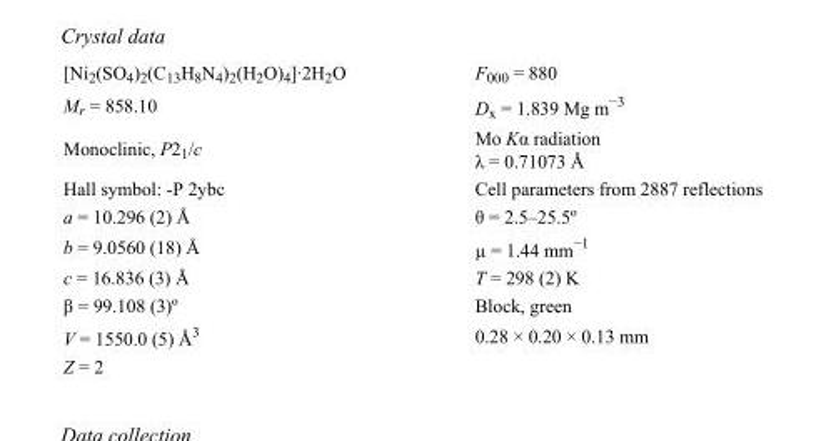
<table><tbody><tr><td>[Ni<sub>2</sub>(SO<sub>4</sub>)<sub>2</sub>(C<sub>13</sub>H<sub>8</sub>N<sub>4</sub>)<sub>2</sub>(H<sub>2</sub>O)<sub>4</sub>]·2H<sub>2</sub>O</td><td>F000 = 880</td></tr><tr><td>M<sub>r</sub> = 858.10</td><td>D<sub>x</sub> = 1.839 Mg m<sup>−3</sup></td></tr><tr><td>Monoclinic, P2<sub>1</sub>/c</td><td>Mo Kα radiation λ = 0.71073 Å</td></tr><tr><td>Hall symbol: -P 2ybc</td><td>Cell parameters from 2887 reflections</td></tr><tr><td>a = 10.296 (2) Å</td><td>θ = 2.5–25.5º</td></tr><tr><td>b = 9.0560 (18) Å</td><td>µ = 1.44 mm<sup>−1</sup></td></tr><tr><td>c = 16.836 (3) Å</td><td>T = 298 (2) K</td></tr><tr><td>β = 99.108 (3)º</td><td>Block, green</td></tr><tr><td>V = 1550.0 (5) Å<sup>3</sup></td><td>0.28 × 0.20 × 0.13 mm</td></tr><tr><td>Z = 2</td><td></td></tr></tbody></table>